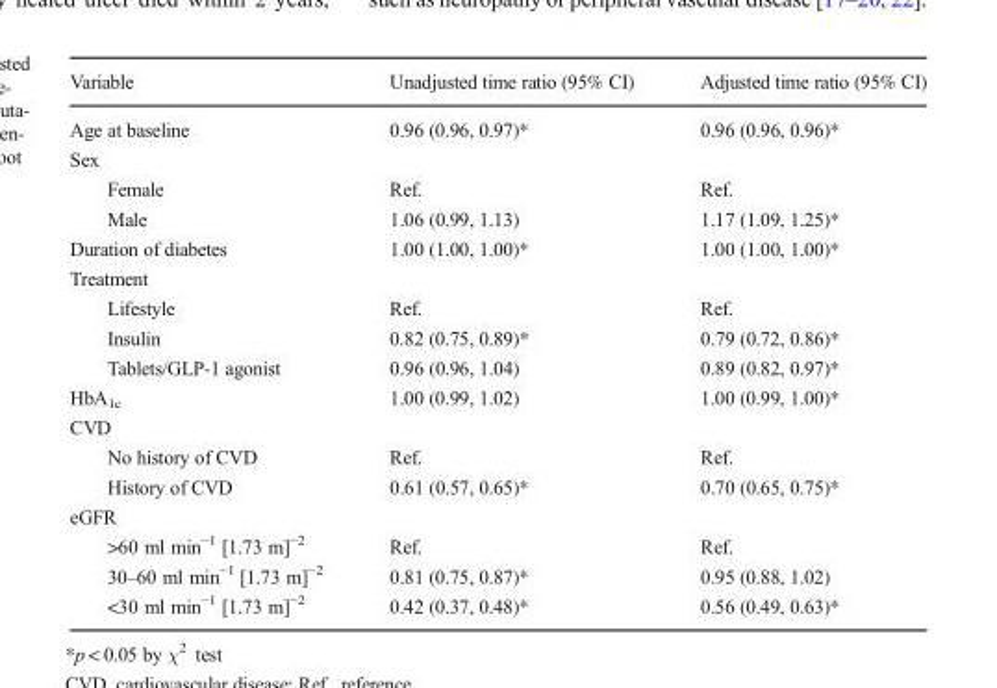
<table><thead><tr><td>Variable</td><td>Unadjusted time ratio (95% CI)</td><td>Adjusted time ratio (95% CI)</td></tr></thead><tbody><tr><td>Age at baseline</td><td>0.96 (0.96, 0.97)*</td><td>0.96 (0.96, 0.96)*</td></tr><tr><td colspan="3">Sex</td></tr><tr><td>Female</td><td>Ref.</td><td>Ref.</td></tr><tr><td>Male</td><td>1.06 (0.99, 1.13)</td><td>1.17 (1.09, 1.25)*</td></tr><tr><td>Duration of diabetes</td><td>1.00 (1.00, 1.00)*</td><td>1.00 (1.00, 1.00)*</td></tr><tr><td colspan="3">Treatment</td></tr><tr><td>Lifestyle</td><td>Ref.</td><td>Ref.</td></tr><tr><td>Insulin</td><td>0.82 (0.75, 0.89)*</td><td>0.79 (0.72, 0.86)*</td></tr><tr><td>Tablets/GLP-1 agonist</td><td>0.96 (0.96, 1.04)</td><td>0.89 (0.82, 0.97)*</td></tr><tr><td>HbA<sub>1c</sub></td><td>1.00 (0.99, 1.02)</td><td>1.00 (0.99, 1.00)*</td></tr><tr><td colspan="3">CVD</td></tr><tr><td>No history of CVD</td><td>Ref.</td><td>Ref.</td></tr><tr><td>History of CVD</td><td>0.61 (0.57, 0.65)*</td><td>0.70 (0.65, 0.75)*</td></tr><tr><td colspan="3">eGFR</td></tr><tr><td>&gt;60 ml min<sup>−1</sup> [1.73 m]<sup>−2</sup></td><td>Ref.</td><td>Ref.</td></tr><tr><td>30–60 ml min<sup>−1</sup> [1.73 m]<sup>−2</sup></td><td>0.81 (0.75, 0.87)*</td><td>0.95 (0.88, 1.02)</td></tr><tr><td>&lt;30 ml min<sup>−1</sup> [1.73 m]<sup>−2</sup></td><td>0.42 (0.37, 0.48)*</td><td>0.56 (0.49, 0.63)*</td></tr></tbody></table>